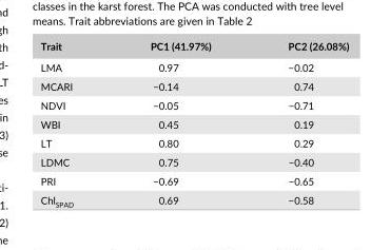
<table><thead><tr><td>Trait</td><td>PC1 (41.97%)</td><td>PC2 (26.08%)</td></tr></thead><tbody><tr><td>LMA</td><td>0.97</td><td>−0.02</td></tr><tr><td>MCARI</td><td>−0.14</td><td>0.74</td></tr><tr><td>NDVI</td><td>−0.05</td><td>−0.71</td></tr><tr><td>WBI</td><td>0.45</td><td>0.19</td></tr><tr><td>LT</td><td>0.80</td><td>0.29</td></tr><tr><td>LDMC</td><td>0.75</td><td>−0.40</td></tr><tr><td>PRI</td><td>−0.69</td><td>−0.65</td></tr><tr><td>Chl<sub>SPAD</sub></td><td>0.69</td><td>−0.58</td></tr></tbody></table>